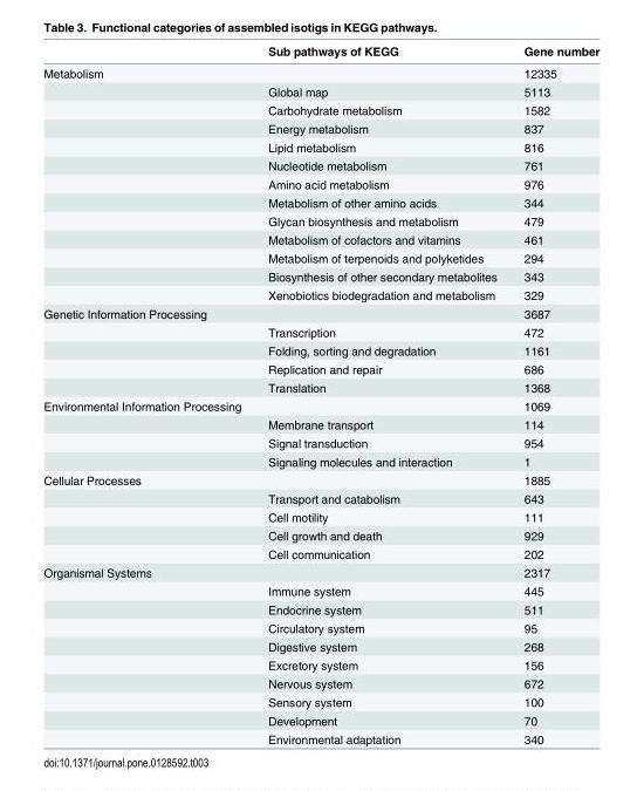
<table><thead><tr><td></td><td>Sub pathways of KEGG</td><td>Gene number</td></tr></thead><tbody><tr><td rowspan="13">Metabolism</td><td></td><td>12335</td></tr><tr><td>Global map</td><td>5113</td></tr><tr><td>Carbohydrate metabolism</td><td>1582</td></tr><tr><td>Energy metabolism</td><td>837</td></tr><tr><td>Lipid metabolism</td><td>816</td></tr><tr><td>Nucleotide metabolism</td><td>761</td></tr><tr><td>Amino acid metabolism</td><td>976</td></tr><tr><td>Metabolism of other amino acids</td><td>344</td></tr><tr><td>Glycan biosynthesis and metabolism</td><td>479</td></tr><tr><td>Metabolism of cofactors and vitamins</td><td>461</td></tr><tr><td>Metabolism of terpenoids and polyketides</td><td>294</td></tr><tr><td>Biosynthesis of other secondary metabolites</td><td>343</td></tr><tr><td>Xenobiotics biodegradation and metabolism</td><td>329</td></tr><tr><td rowspan="5">Genetic Information Processing</td><td></td><td>3687</td></tr><tr><td>Transcription</td><td>472</td></tr><tr><td>Folding, sorting and degradation</td><td>1161</td></tr><tr><td>Replication and repair</td><td>686</td></tr><tr><td>Translation</td><td>1368</td></tr><tr><td rowspan="4">Environmental Information Processing</td><td></td><td>1069</td></tr><tr><td>Membrane transport</td><td>114</td></tr><tr><td>Signal transduction</td><td>954</td></tr><tr><td>Signaling molecules and interaction</td><td>1</td></tr><tr><td rowspan="5">Cellular Processes</td><td></td><td>1885</td></tr><tr><td>Transport and catabolism</td><td>643</td></tr><tr><td>Cell motility</td><td>111</td></tr><tr><td>Cell growth and death</td><td>929</td></tr><tr><td>Cell communication</td><td>202</td></tr><tr><td rowspan="10">Organismal Systems</td><td></td><td>2317</td></tr><tr><td>Immune system</td><td>445</td></tr><tr><td>Endocrine system</td><td>511</td></tr><tr><td>Circulatory system</td><td>95</td></tr><tr><td>Digestive system</td><td>268</td></tr><tr><td>Excretory system</td><td>156</td></tr><tr><td>Nervous system</td><td>672</td></tr><tr><td>Sensory system</td><td>100</td></tr><tr><td>Development</td><td>70</td></tr><tr><td>Environmental adaptation</td><td>340</td></tr></tbody></table>